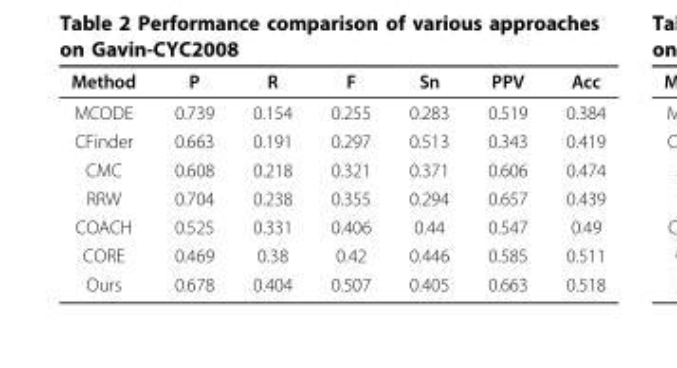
<table><thead><tr><td>Method</td><td>P</td><td>R</td><td>F</td><td>Sn</td><td>PPV</td><td>Acc</td></tr></thead><tbody><tr><td>MCODE</td><td>0.739</td><td>0.154</td><td>0.255</td><td>0.283</td><td>0.519</td><td>0.384</td></tr><tr><td>CFinder</td><td>0.663</td><td>0.191</td><td>0.297</td><td>0.513</td><td>0.343</td><td>0.419</td></tr><tr><td>CMC</td><td>0.608</td><td>0.218</td><td>0.321</td><td>0.371</td><td>0.606</td><td>0.474</td></tr><tr><td>RRW</td><td>0.704</td><td>0.238</td><td>0.355</td><td>0.294</td><td>0.657</td><td>0.439</td></tr><tr><td>COACH</td><td>0.525</td><td>0.331</td><td>0.406</td><td>0.44</td><td>0.547</td><td>0.49</td></tr><tr><td>CORE</td><td>0.469</td><td>0.38</td><td>0.42</td><td>0.446</td><td>0.585</td><td>0.511</td></tr><tr><td>Ours</td><td>0.678</td><td>0.404</td><td>0.507</td><td>0.405</td><td>0.663</td><td>0.518</td></tr></tbody></table>